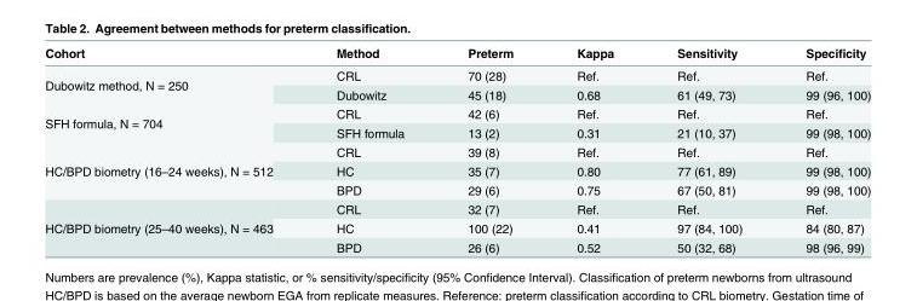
<table><thead><tr><td>Cohort</td><td>Method</td><td>Preterm</td><td>Kappa</td><td>Sensitivity</td><td>Specificity</td></tr></thead><tbody><tr><td rowspan="2">Dubowitz method, N = 250</td><td>CRL</td><td>70 (28)</td><td>Ref.</td><td>Ref.</td><td>Ref.</td></tr><tr><td>Dubowitz</td><td>45 (18)</td><td>0.68</td><td>61 (49, 73)</td><td>99 (96, 100)</td></tr><tr><td rowspan="2">SFH formula, N = 704</td><td>CRL</td><td>42 (6)</td><td>Ref.</td><td>Ref.</td><td>Ref.</td></tr><tr><td>SFH formula</td><td>13 (2)</td><td>0.31</td><td>21 (10, 37)</td><td>99 (98, 100)</td></tr><tr><td rowspan="3">HC/BPD biometry (16–24 weeks), N = 512</td><td>CRL</td><td>39 (8)</td><td>Ref.</td><td>Ref.</td><td>Ref.</td></tr><tr><td>HC</td><td>35 (7)</td><td>0.80</td><td>77 (61, 89)</td><td>99 (98, 100)</td></tr><tr><td>BPD</td><td>29 (6)</td><td>0.75</td><td>67 (50, 81)</td><td>99 (98, 100)</td></tr><tr><td rowspan="3">HC/BPD biometry (25–40 weeks), N = 463</td><td>CRL</td><td>32 (7)</td><td>Ref.</td><td>Ref.</td><td>Ref.</td></tr><tr><td>HC</td><td>100 (22)</td><td>0.41</td><td>97 (84, 100)</td><td>84 (80, 87)</td></tr><tr><td>BPD</td><td>26 (6)</td><td>0.52</td><td>50 (32, 68)</td><td>98 (96, 99)</td></tr></tbody></table>